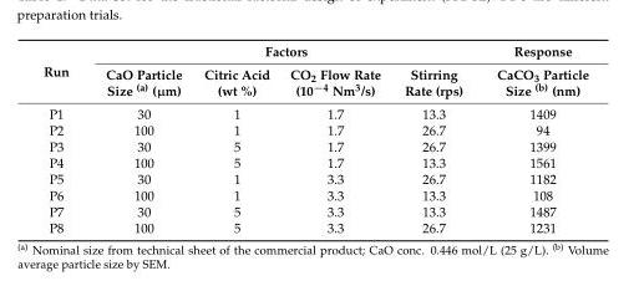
<table><thead><tr><td rowspan="2">Run</td><td colspan="4">Factors</td><td rowspan="2">Response CaCO<sub>3</sub> Particle Size <sup>(b)</sup> (nm)</td></tr><tr><td>CaO Particle Size <sup>(a)</sup> (µm)</td><td>Citric Acid (wt %)</td><td>CO<sub>2</sub> Flow Rate (10<sup>−4</sup> Nm<sup>3</sup>/s)</td><td>Stirring Rate (rps)</td></tr></thead><tbody><tr><td>P1</td><td>30</td><td>1</td><td>1.7</td><td>13.3</td><td>1409</td></tr><tr><td>P2</td><td>100</td><td>1</td><td>1.7</td><td>26.7</td><td>94</td></tr><tr><td>P3</td><td>30</td><td>5</td><td>1.7</td><td>26.7</td><td>1399</td></tr><tr><td>P4</td><td>100</td><td>5</td><td>1.7</td><td>13.3</td><td>1561</td></tr><tr><td>P5</td><td>30</td><td>1</td><td>3.3</td><td>26.7</td><td>1182</td></tr><tr><td>P6</td><td>100</td><td>1</td><td>3.3</td><td>13.3</td><td>108</td></tr><tr><td>P7</td><td>30</td><td>5</td><td>3.3</td><td>13.3</td><td>1487</td></tr><tr><td>P8</td><td>100</td><td>5</td><td>3.3</td><td>26.7</td><td>1231</td></tr></tbody></table>